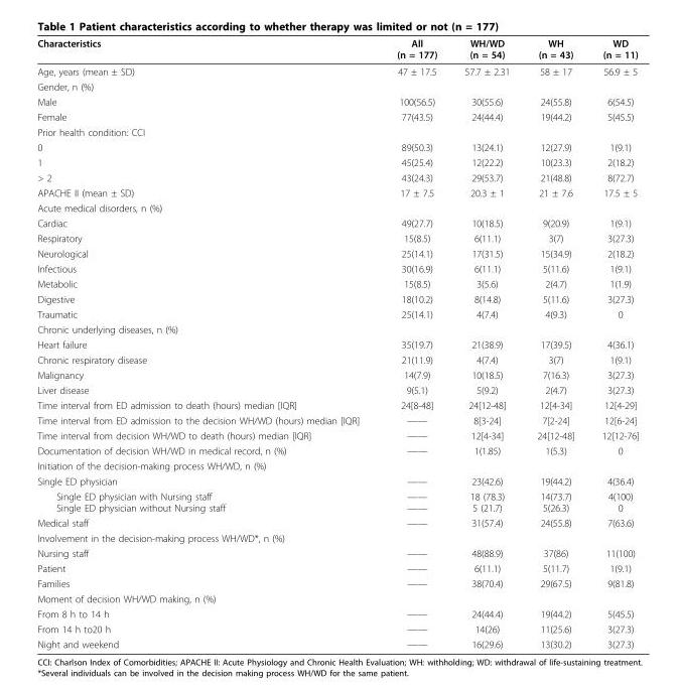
<table><thead><tr><td>Characteristics</td><td>All (n = 177)</td><td>WH/WD (n = 54)</td><td>WH (n = 43)</td><td>WD (n = 11)</td></tr></thead><tbody><tr><td>Age, years (mean ± SD)</td><td>47 ± 17.5</td><td>57.7 ± 2.31</td><td>58 ± 17</td><td>56.9 ± 5</td></tr><tr><td colspan="5">Gender, n (%)</td></tr><tr><td>Male</td><td>100(56.5)</td><td>30(55.6)</td><td>24(55.8)</td><td>6(54.5)</td></tr><tr><td>Female</td><td>77(43.5)</td><td>24(44.4)</td><td>19(44.2)</td><td>5(45.5)</td></tr><tr><td colspan="5">Prior health condition: CCI</td></tr><tr><td>0</td><td>89(50.3)</td><td>13(24.1)</td><td>12(27.9)</td><td>1(9.1)</td></tr><tr><td>1</td><td>45(25.4)</td><td>12(22.2)</td><td>10(23.3)</td><td>2(18.2)</td></tr><tr><td>&gt; 2</td><td>43(24.3)</td><td>29(53.7)</td><td>21(48.8)</td><td>8(72.7)</td></tr><tr><td>APACHE II (mean ± SD)</td><td>17 ± 7.5</td><td>20.3 ± 1</td><td>21 ± 7.6</td><td>17.5 ± 5</td></tr><tr><td colspan="5">Acute medical disorders, n (%)</td></tr><tr><td>Cardiac</td><td>49(27.7)</td><td>10(18.5)</td><td>9(20.9)</td><td>1(9.1)</td></tr><tr><td>Respiratory</td><td>15(8.5)</td><td>6(11.1)</td><td>3(7)</td><td>3(27.3)</td></tr><tr><td>Neurological</td><td>25(14.1)</td><td>17(31.5)</td><td>15(34.9)</td><td>2(18.2)</td></tr><tr><td>Infectious</td><td>30(16.9)</td><td>6(11.1)</td><td>5(11.6)</td><td>1(9.1)</td></tr><tr><td>Metabolic</td><td>15(8.5)</td><td>3(5.6)</td><td>2(4.7)</td><td>1(1.9)</td></tr><tr><td>Digestive</td><td>18(10.2)</td><td>8(14.8)</td><td>5(11.6)</td><td>3(27.3)</td></tr><tr><td>Traumatic</td><td>25(14.1)</td><td>4(7.4)</td><td>4(9.3)</td><td>0</td></tr><tr><td colspan="5">Chronic underlying diseases, n (%)</td></tr><tr><td>Heart failure</td><td>35(19.7)</td><td>21(38.9)</td><td>17(39.5)</td><td>4(36.1)</td></tr><tr><td>Chronic respiratory disease</td><td>21(11.9)</td><td>4(7.4)</td><td>3(7)</td><td>1(9.1)</td></tr><tr><td>Malignancy</td><td>14(7.9)</td><td>10(18.5)</td><td>7(16.3)</td><td>3(27.3)</td></tr><tr><td>Liver disease</td><td>9(5.1)</td><td>5(9.2)</td><td>2(4.7)</td><td>3(27.3)</td></tr><tr><td>Time interval from ED admission to death (hours) median [IQR]</td><td>24[8-48]</td><td>24[12-48]</td><td>12[4-34]</td><td>12[4-29]</td></tr><tr><td>Time interval from ED admission to the decision WH/WD (hours) median [IQR]</td><td>——</td><td>8[3-24]</td><td>7[2-24]</td><td>12[6-24]</td></tr><tr><td>Time interval from decision WH/WD to death (hours) median [IQR]</td><td>——</td><td>12[4-34]</td><td>24[12-48]</td><td>12[12-76]</td></tr><tr><td>Documentation of decision WH/WD in medical record, n (%)</td><td>——</td><td>1(1.85)</td><td>1(5.3)</td><td>0</td></tr><tr><td colspan="5">Initiation of the decision-making process WH/WD, n (%)</td></tr><tr><td>Single ED physician</td><td>——</td><td>23(42.6)</td><td>19(44.2)</td><td>4(36.4)</td></tr><tr><td>Single ED physician with Nursing staff Single ED physician without Nursing staff</td><td>—— ——</td><td>18 (78.3) 5 (21.7)</td><td>14(73.7) 5(26.3)</td><td>4(100) 0</td></tr><tr><td>Medical staff</td><td>——</td><td>31(57.4)</td><td>24(55.8)</td><td>7(63.6)</td></tr><tr><td colspan="5">Involvement in the decision-making process WH/WD*, n (%)</td></tr><tr><td>Nursing staff</td><td>——</td><td>48(88.9)</td><td>37(86)</td><td>11(100)</td></tr><tr><td>Patient</td><td>——</td><td>6(11.1)</td><td>5(11.7)</td><td>1(9.1)</td></tr><tr><td>Families</td><td>——</td><td>38(70.4)</td><td>29(67.5)</td><td>9(81.8)</td></tr><tr><td colspan="5">Moment of decision WH/WD making, n (%)</td></tr><tr><td>From 8 h to 14 h</td><td>——</td><td>24(44.4)</td><td>19(44.2)</td><td>5(45.5)</td></tr><tr><td>From 14 h to20 h</td><td>——</td><td>14(26)</td><td>11(25.6)</td><td>3(27.3)</td></tr><tr><td>Night and weekend</td><td>——</td><td>16(29.6)</td><td>13(30.2)</td><td>3(27.3)</td></tr></tbody></table>